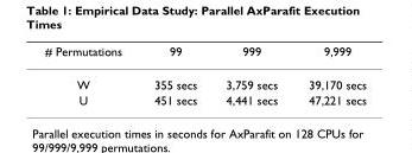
<table><thead><tr><td># Permutations</td><td>99</td><td>999</td><td>9,999</td></tr></thead><tbody><tr><td>W</td><td>355 secs</td><td>3,759 secs</td><td>39,170 secs</td></tr><tr><td>U</td><td>451 secs</td><td>4,441 secs</td><td>47,221 secs</td></tr></tbody></table>